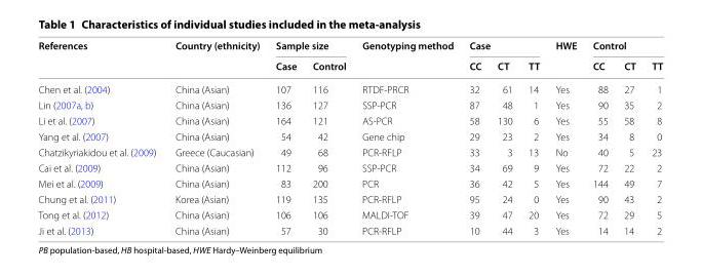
<table><thead><tr><td rowspan="2">References</td><td rowspan="2">Country (ethnicity)</td><td colspan="2">Sample size</td><td rowspan="2">Genotyping method</td><td colspan="3">Case</td><td rowspan="2">HWE</td><td colspan="3">Control</td></tr><tr><td>Case</td><td>Control</td><td>CC</td><td>CT</td><td>TT</td><td>CC</td><td>CT</td><td>TT</td></tr></thead><tbody><tr><td>Chen et al. (2004)</td><td>China (Asian)</td><td>107</td><td>116</td><td>RTDF‑PRCR</td><td>32</td><td>61</td><td>14</td><td>Yes</td><td>88</td><td>27</td><td>1</td></tr><tr><td>Lin (2007a, b)</td><td>China (Asian)</td><td>136</td><td>127</td><td>SSP‑PCR</td><td>87</td><td>48</td><td>1</td><td>Yes</td><td>90</td><td>35</td><td>2</td></tr><tr><td>Li et al. (2007)</td><td>China (Asian)</td><td>164</td><td>121</td><td>AS‑PCR</td><td>58</td><td>130</td><td>6</td><td>Yes</td><td>55</td><td>58</td><td>8</td></tr><tr><td>Yang et al. (2007)</td><td>China (Asian)</td><td>54</td><td>42</td><td>Gene chip</td><td>29</td><td>23</td><td>2</td><td>Yes</td><td>34</td><td>8</td><td>0</td></tr><tr><td>Chatzikyriakidou et al. (2009)</td><td>Greece (Caucasian)</td><td>49</td><td>68</td><td>PCR‑RFLP</td><td>33</td><td>3</td><td>13</td><td>No</td><td>40</td><td>5</td><td>23</td></tr><tr><td>Cai et al. (2009)</td><td>China (Asian)</td><td>112</td><td>96</td><td>SSP‑PCR</td><td>34</td><td>69</td><td>9</td><td>Yes</td><td>72</td><td>22</td><td>2</td></tr><tr><td>Mei et al. (2009)</td><td>China (Asian)</td><td>83</td><td>200</td><td>PCR</td><td>36</td><td>42</td><td>5</td><td>Yes</td><td>144</td><td>49</td><td>7</td></tr><tr><td>Chung et al. (2011)</td><td>Korea (Asian)</td><td>119</td><td>135</td><td>PCR‑RFLP</td><td>95</td><td>24</td><td>0</td><td>Yes</td><td>90</td><td>43</td><td>2</td></tr><tr><td>Tong et al. (2012)</td><td>China (Asian)</td><td>106</td><td>106</td><td>MALDI‑TOF</td><td>39</td><td>47</td><td>20</td><td>Yes</td><td>72</td><td>29</td><td>5</td></tr><tr><td>Ji et al. (2013)</td><td>China (Asian)</td><td>57</td><td>30</td><td>PCR‑RFLP</td><td>10</td><td>44</td><td>3</td><td>Yes</td><td>14</td><td>14</td><td>2</td></tr></tbody></table>